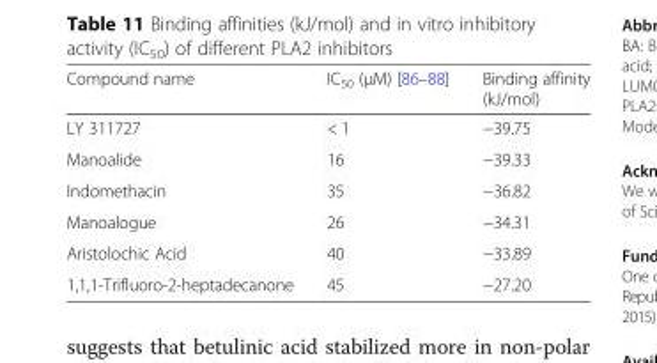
<table><thead><tr><td>Compound name</td><td>IC<sub>50</sub> (μM) [86–88]</td><td>Binding affinity (kJ/mol)</td></tr></thead><tbody><tr><td>LY 311727</td><td>&lt; 1</td><td>−39.75</td></tr><tr><td>Manoalide</td><td>16</td><td>−39.33</td></tr><tr><td>Indomethacin</td><td>35</td><td>−36.82</td></tr><tr><td>Manoalogue</td><td>26</td><td>−34.31</td></tr><tr><td>Aristolochic Acid</td><td>40</td><td>−33.89</td></tr><tr><td>1,1,1-Trifluoro-2-heptadecanone</td><td>45</td><td>−27.20</td></tr></tbody></table>